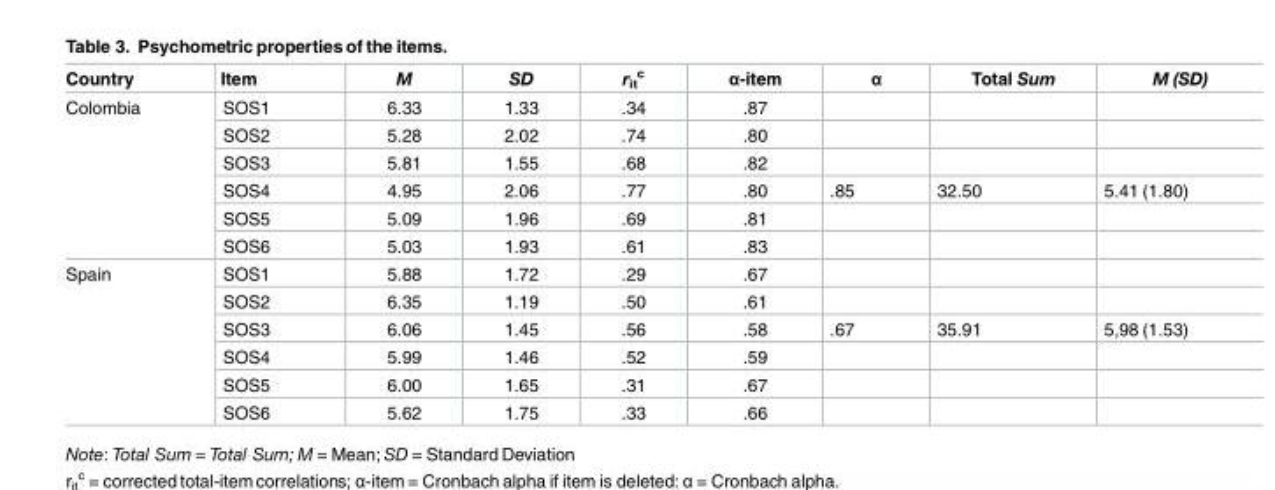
<table><thead><tr><td>Country</td><td>Item</td><td>M</td><td>SD</td><td>r<sub>it</sub> <sup>c</sup></td><td>α-item</td><td>α</td><td>Total Sum</td><td>M (SD)</td></tr></thead><tbody><tr><td rowspan="6">Colombia</td><td>SOS1</td><td>6.33</td><td>1.33</td><td>.34</td><td>.87</td><td></td><td></td><td></td></tr><tr><td>SOS2</td><td>5.28</td><td>2.02</td><td>.74</td><td>.80</td><td></td><td></td><td></td></tr><tr><td>SOS3</td><td>5.81</td><td>1.55</td><td>.68</td><td>.82</td><td></td><td></td><td></td></tr><tr><td>SOS4</td><td>4.95</td><td>2.06</td><td>.77</td><td>.80</td><td>.85</td><td>32.50</td><td>5.41 (1.80)</td></tr><tr><td>SOS5</td><td>5.09</td><td>1.96</td><td>.69</td><td>.81</td><td></td><td></td><td></td></tr><tr><td>SOS6</td><td>5.03</td><td>1.93</td><td>.61</td><td>.83</td><td></td><td></td><td></td></tr><tr><td rowspan="6">Spain</td><td>SOS1</td><td>5.88</td><td>1.72</td><td>.29</td><td>.67</td><td></td><td></td><td></td></tr><tr><td>SOS2</td><td>6.35</td><td>1.19</td><td>.50</td><td>.61</td><td></td><td></td><td></td></tr><tr><td>SOS3</td><td>6.06</td><td>1.45</td><td>.56</td><td>.58</td><td>.67</td><td>35.91</td><td>5,98 (1.53)</td></tr><tr><td>SOS4</td><td>5.99</td><td>1.46</td><td>.52</td><td>.59</td><td></td><td></td><td></td></tr><tr><td>SOS5</td><td>6.00</td><td>1.65</td><td>.31</td><td>.67</td><td></td><td></td><td></td></tr><tr><td>SOS6</td><td>5.62</td><td>1.75</td><td>.33</td><td>.66</td><td></td><td></td><td></td></tr></tbody></table>